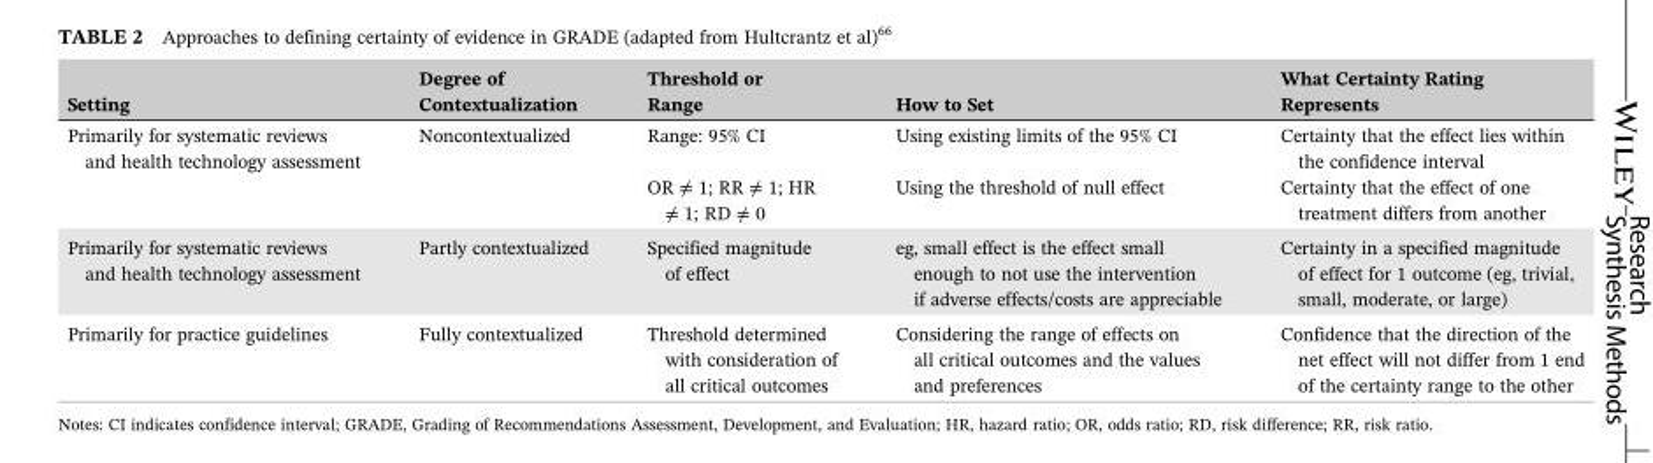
<table><thead><tr><td>Setting</td><td>Degree of Contextualization</td><td>Threshold or Range</td><td>How to Set</td><td>What Certainty Rating Represents</td></tr></thead><tbody><tr><td rowspan="2">Primarily for systematic reviews and health technology assessment</td><td rowspan="2">Noncontextualized</td><td>Range: 95% CI</td><td>Using existing limits of the 95% CI</td><td>Certainty that the effect lies within the confidence interval</td></tr><tr><td>OR ≠ 1; RR ≠ 1; HR ≠ 1; RD ≠ 0</td><td>Using the threshold of null effect</td><td>Certainty that the effect of one treatment differs from another</td></tr><tr><td>Primarily for systematic reviews and health technology assessment</td><td>Partly contextualized</td><td>Specified magnitude of effect</td><td>eg, small effect is the effect small enough to not use the intervention if adverse effects/costs are appreciable</td><td>Certainty in a specified magnitude of effect for 1 outcome (eg, trivial, small, moderate, or large)</td></tr><tr><td>Primarily for practice guidelines</td><td>Fully contextualized</td><td>Threshold determined with consideration of all critical outcomes</td><td>Considering the range of effects on all critical outcomes and the values and preferences</td><td>Confidence that the direction of the net effect will not differ from 1 end of the certainty range to the other</td></tr></tbody></table>